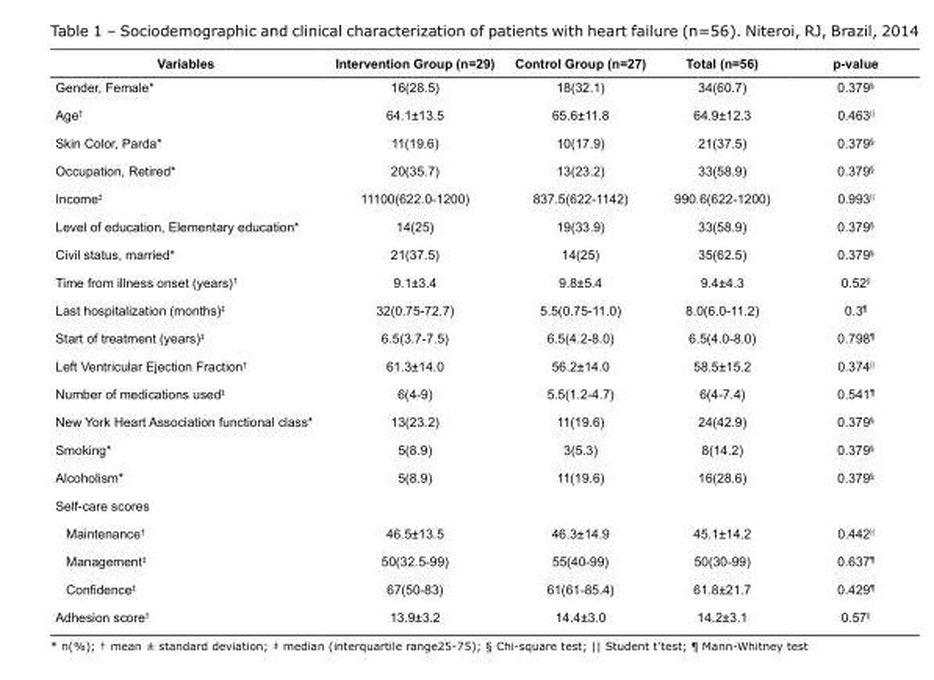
<table><tbody><tr><td>Variables</td><td>Intervention Group (n=29)</td><td>Control Group (n=27)</td><td>Total (n=56)</td><td>p-value</td></tr><tr><td>Gender, Female*</td><td>16(28.5)</td><td>18(32.1)</td><td>34(60.7)</td><td>0.379<sup>§</sup></td></tr><tr><td>Age<sup>†</sup></td><td>64.1±13.5</td><td>65.6±11.8</td><td>64.9±12.3</td><td>0.463<sup>||</sup></td></tr><tr><td>Skin Color, Parda*</td><td>11(19.6)</td><td>10(17.9)</td><td>21(37.5)</td><td>0.379<sup>§</sup></td></tr><tr><td>Occupation, Retired*</td><td>20(35.7)</td><td>13(23.2)</td><td>33(58.9)</td><td>0.379<sup>§</sup></td></tr><tr><td>Income<sup>‡</sup></td><td>11100(622.0-1200)</td><td>837.5(622-1142)</td><td>990.6(622-1200)</td><td>0.993<sup>||</sup></td></tr><tr><td>Level of education, Elementary education*</td><td>14(25)</td><td>19(33.9)</td><td>33(58.9)</td><td>0.379<sup>§</sup></td></tr><tr><td>Civil status, married*</td><td>21(37.5)</td><td>14(25)</td><td>35(62.5)</td><td>0.379<sup>§</sup></td></tr><tr><td>Time from illness onset (years)<sup>†</sup></td><td>9.1±3.4</td><td>9.8±5.4</td><td>9.4±4.3</td><td>0.52<sup>||</sup></td></tr><tr><td>Last hospitalization (months)<sup>‡</sup></td><td>32(0.75-72.7)</td><td>5.5(0.75-11.0)</td><td>8.0(6.0-11.2)</td><td>0.3<sup>¶</sup></td></tr><tr><td>Start of treatment (years)<sup>‡</sup></td><td>6.5(3.7-7.5)</td><td>6.5(4.2-8.0)</td><td>6.5(4.0-8.0)</td><td>0.798<sup>¶</sup></td></tr><tr><td>Left Ventricular Ejection Fraction<sup>†</sup></td><td>61.3±14.0</td><td>56.2±14.0</td><td>58.5±15.2</td><td>0.374<sup>||</sup></td></tr><tr><td>Number of medications used<sup>‡</sup></td><td>6(4-9)</td><td>5.5(1.2-4.7)</td><td>6(4-7.4)</td><td>0.541<sup>¶</sup></td></tr><tr><td>New York Heart Association functional class*</td><td>13(23.2)</td><td>11(19.6)</td><td>24(42.9)</td><td>0.379<sup>§</sup></td></tr><tr><td>Smoking*</td><td>5(8.9)</td><td>3(5.3)</td><td>8(14.2)</td><td>0.379<sup>§</sup></td></tr><tr><td>Alcoholism*</td><td>5(8.9)</td><td>11(19.6)</td><td>16(28.6)</td><td>0.379<sup>§</sup></td></tr><tr><td colspan="5">Self-care scores</td></tr><tr><td>Maintenance<sup>†</sup></td><td>46.5±13.5</td><td>46.3±14.9</td><td>45.1±14.2</td><td>0.442<sup>||</sup></td></tr><tr><td>Management<sup>‡</sup></td><td>50(32.5-99)</td><td>55(40-99)</td><td>50(30-99)</td><td>0.637<sup>¶</sup></td></tr><tr><td>Confidence<sup>‡</sup></td><td>67(50-83)</td><td>61(61-85.4)</td><td>61.8±21.7</td><td>0.429<sup>¶</sup></td></tr><tr><td>Adhesion score<sup>†</sup></td><td>13.9±3.2</td><td>14.4±3.0</td><td>14.2±3.1</td><td>0.57<sup>||</sup></td></tr></tbody></table>